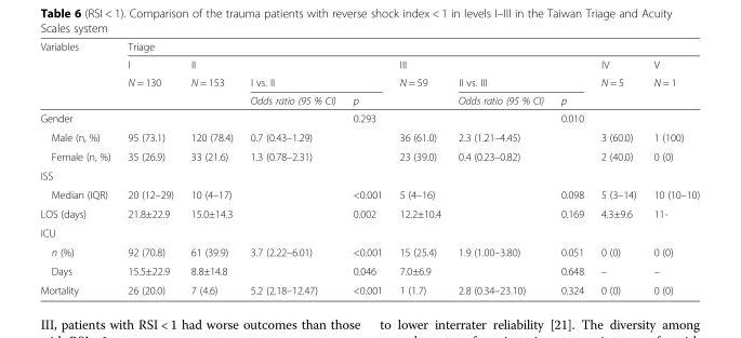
<table><thead><tr><td rowspan="4">Variables</td><td colspan="9">Triage</td></tr><tr><td rowspan="3">I N = 130</td><td rowspan="3">II N = 153</td><td></td><td></td><td rowspan="3">III N = 59</td><td></td><td></td><td rowspan="3">IV N = 5</td><td rowspan="3">V N = 1</td></tr><tr><td colspan="2">I vs. II</td><td colspan="2">II vs. III</td></tr><tr><td>Odds ratio (95 % CI)</td><td>p</td><td>Odds ratio (95 % CI)</td><td>p</td></tr></thead><tbody><tr><td>Gender</td><td></td><td></td><td></td><td>0.293</td><td></td><td></td><td>0.010</td><td></td><td></td></tr><tr><td>Male (n, %)</td><td>95 (73.1)</td><td>120 (78.4)</td><td>0.7 (0.43–1.29)</td><td></td><td>36 (61.0)</td><td>2.3 (1.21–4.45)</td><td></td><td>3 (60.0)</td><td>1 (100)</td></tr><tr><td>Female (n, %)</td><td>35 (26.9)</td><td>33 (21.6)</td><td>1.3 (0.78–2.31)</td><td></td><td>23 (39.0)</td><td>0.4 (0.23–0.82)</td><td></td><td>2 (40.0)</td><td>0 (0)</td></tr><tr><td colspan="10">ISS</td></tr><tr><td>Median (IQR)</td><td>20 (12–29)</td><td>10 (4–17)</td><td></td><td>&lt;0.001</td><td>5 (4–16)</td><td></td><td>0.098</td><td>5 (3–14)</td><td>10 (10–10)</td></tr><tr><td>LOS (days)</td><td>21.8±22.9</td><td>15.0±14.3</td><td></td><td>0.002</td><td>12.2±10.4</td><td></td><td>0.169</td><td>4.3±9.6</td><td>11-</td></tr><tr><td colspan="10">ICU</td></tr><tr><td>n (%)</td><td>92 (70.8)</td><td>61 (39.9)</td><td>3.7 (2.22–6.01)</td><td>&lt;0.001</td><td>15 (25.4)</td><td>1.9 (1.00–3.80)</td><td>0.051</td><td>0 (0)</td><td>0 (0)</td></tr><tr><td>Days</td><td>15.5±22.9</td><td>8.8±14.8</td><td></td><td>0.046</td><td>7.0±6.9</td><td></td><td>0.648</td><td>–</td><td>–</td></tr><tr><td>Mortality</td><td>26 (20.0)</td><td>7 (4.6)</td><td>5.2 (2.18–12.47)</td><td>&lt;0.001</td><td>1 (1.7)</td><td>2.8 (0.34–23.10)</td><td>0.324</td><td>0 (0)</td><td>0 (0)</td></tr></tbody></table>